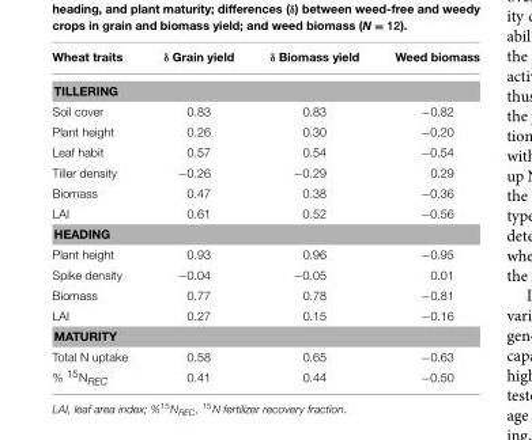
<table><thead><tr><td>Wheat traits</td><td>δ Grain yield</td><td>δ Biomass yield</td><td>Weed biomass</td></tr></thead><tbody><tr><td colspan="4">TILLERING</td></tr><tr><td>Soil cover</td><td>0.83</td><td>0.83</td><td>−0.82</td></tr><tr><td>Plant height</td><td>0.26</td><td>0.30</td><td>−0.20</td></tr><tr><td>Leaf habit</td><td>0.57</td><td>0.54</td><td>−0.54</td></tr><tr><td>Tiller density</td><td>−0.26</td><td>−0.29</td><td>0.29</td></tr><tr><td>Biomass</td><td>0.47</td><td>0.38</td><td>−0.36</td></tr><tr><td>LAI</td><td>0.61</td><td>0.52</td><td>−0.56</td></tr><tr><td colspan="4">HEADING</td></tr><tr><td>Plant height</td><td>0.93</td><td>0.96</td><td>−0.95</td></tr><tr><td>Spike density</td><td>−0.04</td><td>−0.05</td><td>0.01</td></tr><tr><td>Biomass</td><td>0.77</td><td>0.78</td><td>−0.81</td></tr><tr><td>LAI</td><td>0.27</td><td>0.15</td><td>−0.16</td></tr><tr><td colspan="4">MATURITY</td></tr><tr><td>Total N uptake</td><td>0.58</td><td>0.65</td><td>−0.63</td></tr><tr><td>% <sup>15</sup>N<sub>REC</sub></td><td>0.41</td><td>0.44</td><td>−0.50</td></tr></tbody></table>